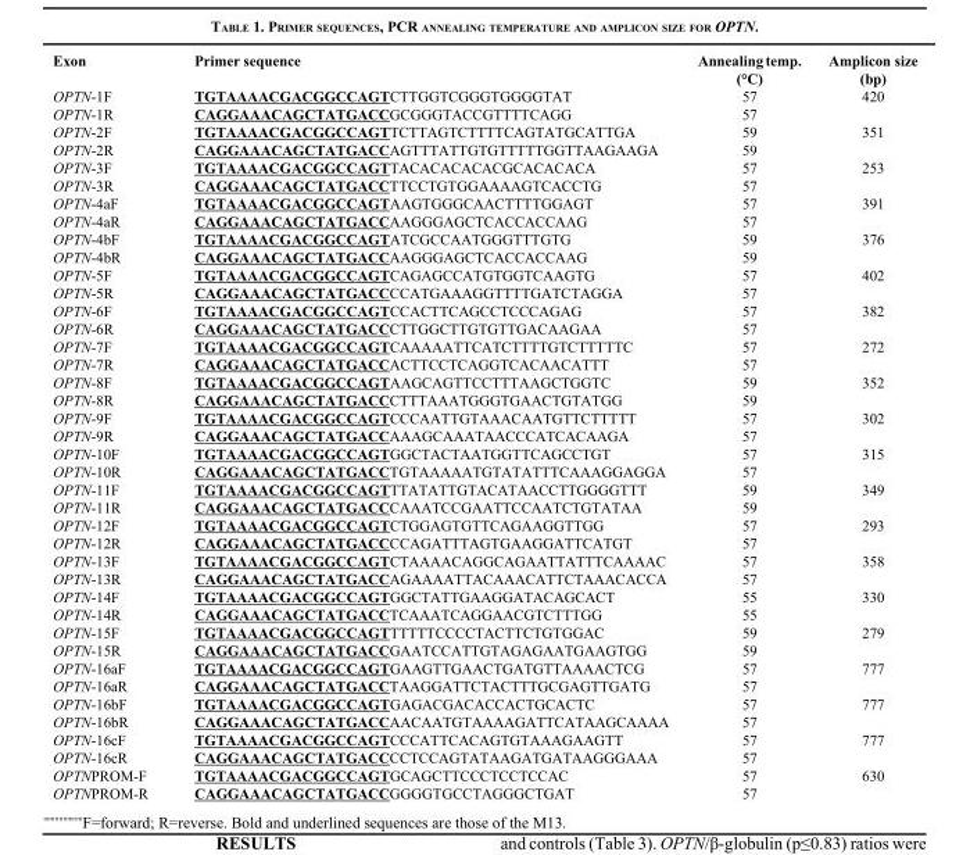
<table><thead><tr><td>Exon</td><td>Primer sequence</td><td>Annealing temp. (°C)</td><td>Amplicon size (bp)</td></tr></thead><tbody><tr><td>OPTN-1F</td><td>TGTAAAACGACGGCCAGTCTTGGTCGGGTGGGGTAT</td><td>57</td><td>420</td></tr><tr><td>OPTN-1R</td><td>CAGGAAACAGCTATGACCGCGGGTACCGTTTTCAGG</td><td>57</td><td></td></tr><tr><td>OPTN-2F</td><td>TGTAAAACGACGGCCAGTTCTTAGTCTTTTCAGTATGCATTGA</td><td>59</td><td>351</td></tr><tr><td>OPTN-2R</td><td>CAGGAAACAGCTATGACCAGTTTATTGTGTTTTTGGTTAAGAAGA</td><td>59</td><td></td></tr><tr><td>OPTN-3F</td><td>TGTAAAACGACGGCCAGTTACACACACACGCACACACA</td><td>57</td><td>253</td></tr><tr><td>OPTN-3R</td><td>CAGGAAACAGCTATGACCTTCCTGTGGAAAAGTCACCTG</td><td>57</td><td></td></tr><tr><td>OPTN-4aF</td><td>TGTAAAACGACGGCCAGTAAGTGGGCAACTTTTGGAGT</td><td>57</td><td>391</td></tr><tr><td>OPTN-4aR</td><td>CAGGAAACAGCTATGACCAAGGGAGCTCACCACCAAG</td><td>57</td><td></td></tr><tr><td>OPTN-4bF</td><td>TGTAAAACGACGGCCAGTATCGCCAATGGGTTTGTG</td><td>59</td><td>376</td></tr><tr><td>OPTN-4bR</td><td>CAGGAAACAGCTATGACCAAGGGAGCTCACCACCAAG</td><td>59</td><td></td></tr><tr><td>OPTN-5F</td><td>TGTAAAACGACGGCCAGTCAGAGCCATGTGGTCAAGTG</td><td>57</td><td>402</td></tr><tr><td>OPTN-5R</td><td>CAGGAAACAGCTATGACCCCATGAAAGGTTTTGATCTAGGA</td><td>57</td><td></td></tr><tr><td>OPTN-6F</td><td>TGTAAAACGACGGCCAGTCCACTTCAGCCTCCCAGAG</td><td>57</td><td>382</td></tr><tr><td>OPTN-6R</td><td>CAGGAAACAGCTATGACCCTTGGCTTGTGTTGACAAGAA</td><td>57</td><td></td></tr><tr><td>OPTN-7F</td><td>TGTAAAACGACGGCCAGTCAAAAATTCATCTTTTGTCTTTTTC</td><td>57</td><td>272</td></tr><tr><td>OPTN-7R</td><td>CAGGAAACAGCTATGACCACTTCCTCAGGTCACAACATTT</td><td>57</td><td></td></tr><tr><td>OPTN-8F</td><td>TGTAAAACGACGGCCAGTAAGCAGTTCCTTTAAGCTGGTC</td><td>59</td><td>352</td></tr><tr><td>OPTN-8R</td><td>CAGGAAACAGCTATGACCCTTTAAATGGGTGAACTGTATGG</td><td>59</td><td></td></tr><tr><td>OPTN-9F</td><td>TGTAAAACGACGGCCAGTCCCAATTGTAAACAATGTTCTTTTT</td><td>57</td><td>302</td></tr><tr><td>OPTN-9R</td><td>CAGGAAACAGCTATGACCAAAGCAAATAACCCATCACAAGA</td><td>57</td><td></td></tr><tr><td>OPTN-10F</td><td>TGTAAAACGACGGCCAGTGGCTACTAATGGTTCAGCCTGT</td><td>57</td><td>315</td></tr><tr><td>OPTN-10R</td><td>CAGGAAACAGCTATGACCTGTAAAAATGTATATTTCAAAGGAGGA</td><td>57</td><td></td></tr><tr><td>OPTN-11F</td><td>TGTAAAACGACGGCCAGTTTATATTGTACATAACCTTGGGGTTT</td><td>59</td><td>349</td></tr><tr><td>OPTN-11R</td><td>CAGGAAACAGCTATGACCCAAATCCGAATTCCAATCTGTATAA</td><td>59</td><td></td></tr><tr><td>OPTN-12F</td><td>TGTAAAACGACGGCCAGTCTGGAGTGTTCAGAAGGTTGG</td><td>57</td><td>293</td></tr><tr><td>OPTN-12R</td><td>CAGGAAACAGCTATGACCCCAGATTTAGTGAAGGATTCATGT</td><td>57</td><td></td></tr><tr><td>OPTN-13F</td><td>TGTAAAACGACGGCCAGTCTAAAACAGGCAGAATTATTTCAAAAC</td><td>57</td><td>358</td></tr><tr><td>OPTN-13R</td><td>CAGGAAACAGCTATGACCAGAAAATTACAAACATTCTAAACACCA</td><td>57</td><td></td></tr><tr><td>OPTN-14F</td><td>TGTAAAACGACGGCCAGTGGCTATTGAAGGATACAGCACT</td><td>55</td><td>330</td></tr><tr><td>OPTN-14R</td><td>CAGGAAACAGCTATGACCTCAAATCAGGAACGTCTTTGG</td><td>55</td><td></td></tr><tr><td>OPTN-15F</td><td>TGTAAAACGACGGCCAGTTTTTTCCCCTACTTCTGTGGAC</td><td>59</td><td>279</td></tr><tr><td>OPTN-15R</td><td>CAGGAAACAGCTATGACCGAATCCATTGTAGAGAATGAAGTGG</td><td>59</td><td></td></tr><tr><td>OPTN-16aF</td><td>TGTAAAACGACGGCCAGTGAAGTTGAACTGATGTTAAAACTCG</td><td>57</td><td>777</td></tr><tr><td>OPTN-16aR</td><td>CAGGAAACAGCTATGACCTAAGGATTCTACTTTGCGAGTTGATG</td><td>57</td><td></td></tr><tr><td>OPTN-16bF</td><td>TGTAAAACGACGGCCAGTGAGACGACACCACTGCACTC</td><td>57</td><td>777</td></tr><tr><td>OPTN-16bR</td><td>CAGGAAACAGCTATGACCAACAATGTAAAAGATTCATAAGCAAAA</td><td>57</td><td></td></tr><tr><td>OPTN-16cF</td><td>TGTAAAACGACGGCCAGTCCCATTCACAGTGTAAAGAAGTT</td><td>57</td><td>777</td></tr><tr><td>OPTN-16cR</td><td>CAGGAAACAGCTATGACCCCTCCAGTATAAGATGATAAGGGAAA</td><td>57</td><td></td></tr><tr><td>OPTNPROM-F</td><td>TGTAAAACGACGGCCAGTGCAGCTTCCCTCCTCCAC</td><td>57</td><td>630</td></tr><tr><td>OPTNPROM-R</td><td>CAGGAAACAGCTATGACCGGGGTGCCTAGGGCTGAT</td><td>57</td><td></td></tr></tbody></table>